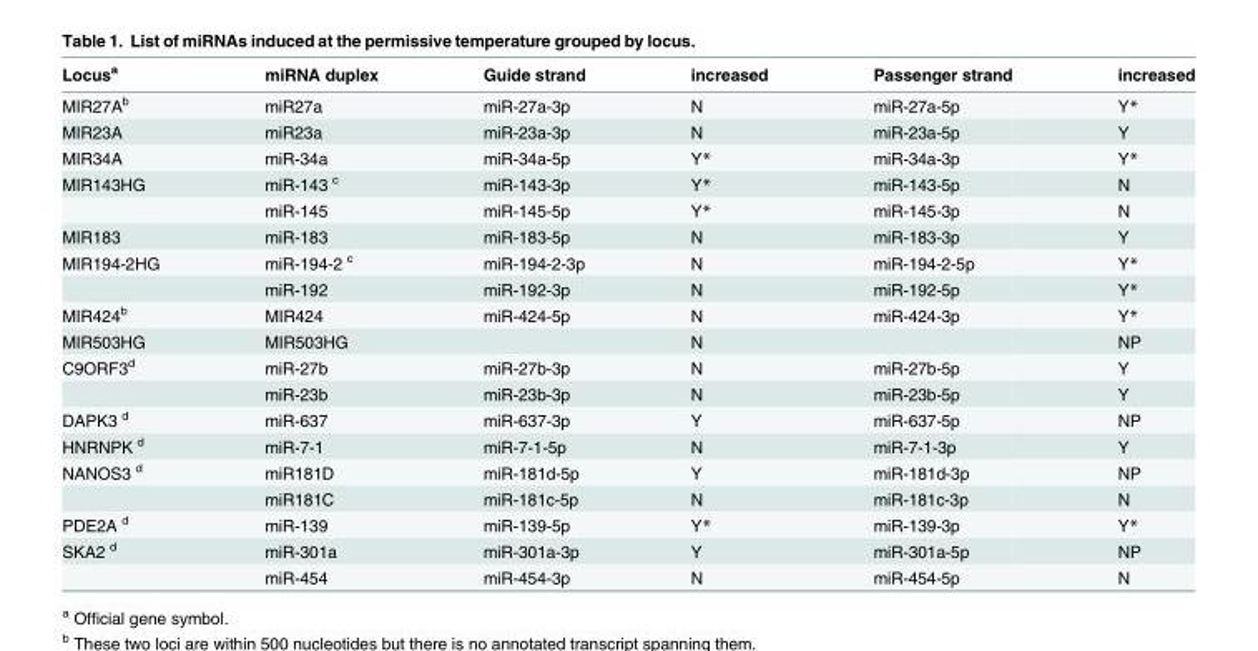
<table><thead><tr><td>Locus<sup>a</sup></td><td>miRNA duplex</td><td>Guide strand</td><td>increased</td><td>Passenger strand</td><td>increased</td></tr></thead><tbody><tr><td>MIR27A<sup>b</sup></td><td>miR27a</td><td>miR-27a-3p</td><td>N</td><td>miR-27a-5p</td><td>Y*</td></tr><tr><td>MIR23A</td><td>miR23a</td><td>miR-23a-3p</td><td>N</td><td>miR-23a-5p</td><td>Y</td></tr><tr><td>MIR34A</td><td>miR-34a</td><td>miR-34a-5p</td><td>Y*</td><td>miR-34a-3p</td><td>Y*</td></tr><tr><td rowspan="2">MIR143HG</td><td>miR-143 <sup>c</sup></td><td>miR-143-3p</td><td>Y*</td><td>miR-143-5p</td><td>N</td></tr><tr><td>miR-145</td><td>miR-145-5p</td><td>Y*</td><td>miR-145-3p</td><td>N</td></tr><tr><td>MIR183</td><td>miR-183</td><td>miR-183-5p</td><td>N</td><td>miR-183-3p</td><td>Y</td></tr><tr><td rowspan="2">MIR194-2HG</td><td>miR-194-2 <sup>c</sup></td><td>miR-194-2-3p</td><td>N</td><td>miR-194-2-5p</td><td>Y*</td></tr><tr><td>miR-192</td><td>miR-192-3p</td><td>N</td><td>miR-192-5p</td><td>Y*</td></tr><tr><td>MIR424<sup>b</sup></td><td>MIR424</td><td>miR-424-5p</td><td>N</td><td>miR-424-3p</td><td>Y*</td></tr><tr><td>MIR503HG</td><td>MIR503HG</td><td></td><td>N</td><td></td><td>NP</td></tr><tr><td rowspan="2">C9ORF3<sup>d</sup></td><td>miR-27b</td><td>miR-27b-3p</td><td>N</td><td>miR-27b-5p</td><td>Y</td></tr><tr><td>miR-23b</td><td>miR-23b-3p</td><td>N</td><td>miR-23b-5p</td><td>Y</td></tr><tr><td>DAPK3 <sup>d</sup></td><td>miR-637</td><td>miR-637-3p</td><td>Y</td><td>miR-637-5p</td><td>NP</td></tr><tr><td>HNRNPK <sup>d</sup></td><td>miR-7-1</td><td>miR-7-1-5p</td><td>N</td><td>miR-7-1-3p</td><td>Y</td></tr><tr><td rowspan="2">NANOS3 <sup>d</sup></td><td>miR181D</td><td>miR-181d-5p</td><td>Y</td><td>miR-181d-3p</td><td>NP</td></tr><tr><td>miR181C</td><td>miR-181c-5p</td><td>N</td><td>miR-181c-3p</td><td>N</td></tr><tr><td>PDE2A <sup>d</sup></td><td>miR-139</td><td>miR-139-5p</td><td>Y*</td><td>miR-139-3p</td><td>Y*</td></tr><tr><td rowspan="2">SKA2 <sup>d</sup></td><td>miR-301a</td><td>miR-301a-3p</td><td>Y</td><td>miR-301a-5p</td><td>NP</td></tr><tr><td>miR-454</td><td>miR-454-3p</td><td>N</td><td>miR-454-5p</td><td>N</td></tr></tbody></table>